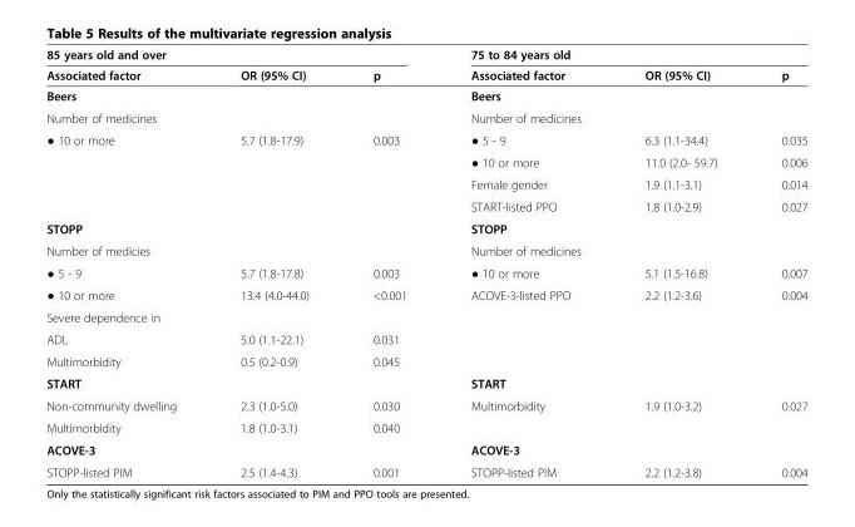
<table><thead><tr><td colspan="3">85 years old and over</td><td colspan="3">75 to 84 years old</td></tr><tr><td>Associated factor</td><td>OR (95% CI)</td><td>p</td><td>Associated factor</td><td>OR (95% CI)</td><td>p</td></tr></thead><tbody><tr><td>Beers</td><td></td><td></td><td>Beers</td><td></td><td></td></tr><tr><td colspan="3">Number of medicines</td><td>Number of medicines</td><td></td><td></td></tr><tr><td rowspan="4">● 10 or more</td><td rowspan="4">5.7 (1.8-17.9)</td><td rowspan="4">0.003</td><td>● 5 - 9</td><td>6.3 (1.1-34.4)</td><td>0.035</td></tr><tr><td>● 10 or more</td><td>11.0 (2.0- 59.7)</td><td>0.006</td></tr><tr><td>Female gender</td><td>1.9 (1.1-3.1)</td><td>0.014</td></tr><tr><td>START-listed PPO</td><td>1.8 (1.0-2.9)</td><td>0.027</td></tr><tr><td colspan="3">STOPP</td><td colspan="3">STOPP</td></tr><tr><td>Number of medicies</td><td></td><td></td><td>Number of medicines</td><td></td><td></td></tr><tr><td>● 5 - 9</td><td>5.7 (1.8-17.8)</td><td>0.003</td><td>● 10 or more</td><td>5.1 (1.5-16.8)</td><td>0.007</td></tr><tr><td>● 10 or more</td><td>13.4 (4.0-44.0)</td><td>&lt;0.001</td><td rowspan="4">ACOVE-3-listed PPO</td><td rowspan="4">2.2 (1.2-3.6)</td><td rowspan="4">0.004</td></tr><tr><td colspan="3">Severe dependence in</td></tr><tr><td>ADL</td><td>5.0 (1.1-22.1)</td><td>0.031</td></tr><tr><td>Multimorbidity</td><td>0.5 (0.2-0.9)</td><td>0.045</td></tr><tr><td colspan="3">START</td><td colspan="3">START</td></tr><tr><td>Non-community dwelling</td><td>2.3 (1.0-5.0)</td><td>0.030</td><td rowspan="2">Multimorbidity</td><td rowspan="2">1.9 (1.0-3.2)</td><td rowspan="2">0.027</td></tr><tr><td>Multimorbidity</td><td>1.8 (1.0-3.1)</td><td>0.040</td></tr><tr><td colspan="3">ACOVE-3</td><td colspan="3">ACOVE-3</td></tr><tr><td>STOPP-listed PIM</td><td>2.5 (1.4-4.3)</td><td>0.001</td><td>STOPP-listed PIM</td><td>2.2 (1.2-3.8)</td><td>0.004</td></tr></tbody></table>